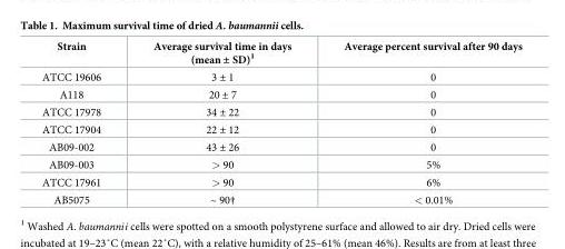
<table><thead><tr><td>Strain</td><td>Average survival time in days (mean ± SD)<sup>1</sup></td><td>Average percent survival after 90 days</td></tr></thead><tbody><tr><td>ATCC 19606</td><td>3 ± 1</td><td>0</td></tr><tr><td>A118</td><td>20 ± 7</td><td>0</td></tr><tr><td>ATCC 17978</td><td>34 ± 22</td><td>0</td></tr><tr><td>ATCC 17904</td><td>22 ± 12</td><td>0</td></tr><tr><td>AB09-002</td><td>43 ± 26</td><td>0</td></tr><tr><td>AB09-003</td><td>&gt; 90</td><td>5%</td></tr><tr><td>ATCC 17961</td><td>&gt; 90</td><td>6%</td></tr><tr><td>AB5075</td><td>~ 90†</td><td>&lt; 0.01%</td></tr></tbody></table>